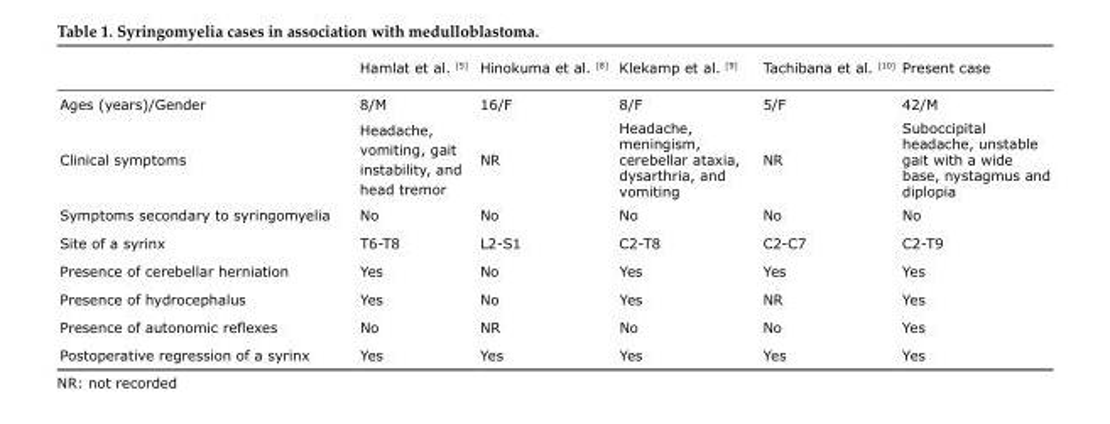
<table><thead><tr><td></td><td>Hamlat et al. <sup>[5]</sup></td><td>Hinokuma et al. <sup>[8]</sup></td><td>Klekamp et al. <sup>[9]</sup></td><td>Tachibana et al. <sup>[10]</sup></td><td>Present case</td></tr></thead><tbody><tr><td>Ages (years)/Gender</td><td>8/M</td><td>16/F</td><td>8/F</td><td>5/F</td><td>42/M</td></tr><tr><td>Clinical symptoms</td><td>Headache, vomiting, gait instability, and head tremor</td><td>NR</td><td>Headache, meningism, cerebellar ataxia, dysarthria, and vomiting</td><td>NR</td><td>Suboccipital headache, unstable gait with a wide base, nystagmus and diplopia</td></tr><tr><td>Symptoms secondary to syringomyelia</td><td>No</td><td>No</td><td>No</td><td>No</td><td>No</td></tr><tr><td>Site of a syrinx</td><td>T6-T8</td><td>L2-S1</td><td>C2-T8</td><td>C2-C7</td><td>C2-T9</td></tr><tr><td>Presence of cerebellar herniation</td><td>Yes</td><td>No</td><td>Yes</td><td>Yes</td><td>Yes</td></tr><tr><td>Presence of hydrocephalus</td><td>Yes</td><td>No</td><td>Yes</td><td>NR</td><td>Yes</td></tr><tr><td>Presence of autonomic reflexes</td><td>No</td><td>NR</td><td>No</td><td>No</td><td>Yes</td></tr><tr><td>Postoperative regression of a syrinx</td><td>Yes</td><td>Yes</td><td>Yes</td><td>Yes</td><td>Yes</td></tr></tbody></table>